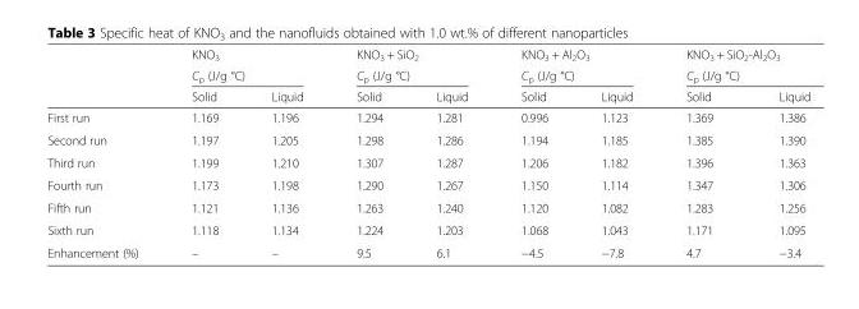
<table><thead><tr><td rowspan="3"></td><td rowspan="2" colspan="2">KNO<sub>3</sub> C<sub>p</sub> (J/g °C)</td><td rowspan="2" colspan="2">KNO<sub>3</sub> + SiO<sub>2</sub> C<sub>p</sub> (J/g °C)</td><td rowspan="2" colspan="2">KNO<sub>3</sub> + Al<sub>2</sub>O<sub>3</sub> C<sub>p</sub> (J/g °C)</td><td rowspan="2" colspan="2">KNO<sub>3</sub> + SiO<sub>2</sub>-Al<sub>2</sub>O<sub>3</sub> C<sub>p</sub> (J/g °C)</td></tr><tr></tr><tr><td>Solid</td><td>Liquid</td><td>Solid</td><td>Liquid</td><td>Solid</td><td>Liquid</td><td>Solid</td><td>Liquid</td></tr></thead><tbody><tr><td>First run</td><td>1.169</td><td>1.196</td><td>1.294</td><td>1.281</td><td>0.996</td><td>1.123</td><td>1.369</td><td>1.386</td></tr><tr><td>Second run</td><td>1.197</td><td>1.205</td><td>1.298</td><td>1.286</td><td>1.194</td><td>1.185</td><td>1.385</td><td>1.390</td></tr><tr><td>Third run</td><td>1.199</td><td>1.210</td><td>1.307</td><td>1.287</td><td>1.206</td><td>1.182</td><td>1.396</td><td>1.363</td></tr><tr><td>Fourth run</td><td>1.173</td><td>1.198</td><td>1.290</td><td>1.267</td><td>1.150</td><td>1.114</td><td>1.347</td><td>1.306</td></tr><tr><td>Fifth run</td><td>1.121</td><td>1.136</td><td>1.263</td><td>1.240</td><td>1.120</td><td>1.082</td><td>1.283</td><td>1.256</td></tr><tr><td>Sixth run</td><td>1.118</td><td>1.134</td><td>1.224</td><td>1.203</td><td>1.068</td><td>1.043</td><td>1.171</td><td>1.095</td></tr><tr><td>Enhancement (%)</td><td>–</td><td>–</td><td>9.5</td><td>6.1</td><td>−4.5</td><td>−7.8</td><td>4.7</td><td>−3.4</td></tr></tbody></table>